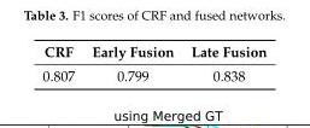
<table><thead><tr><td>CRF</td><td>Early Fusion</td><td>Late Fusion</td></tr></thead><tbody><tr><td>0.807</td><td>0.799</td><td>0.838</td></tr></tbody></table>